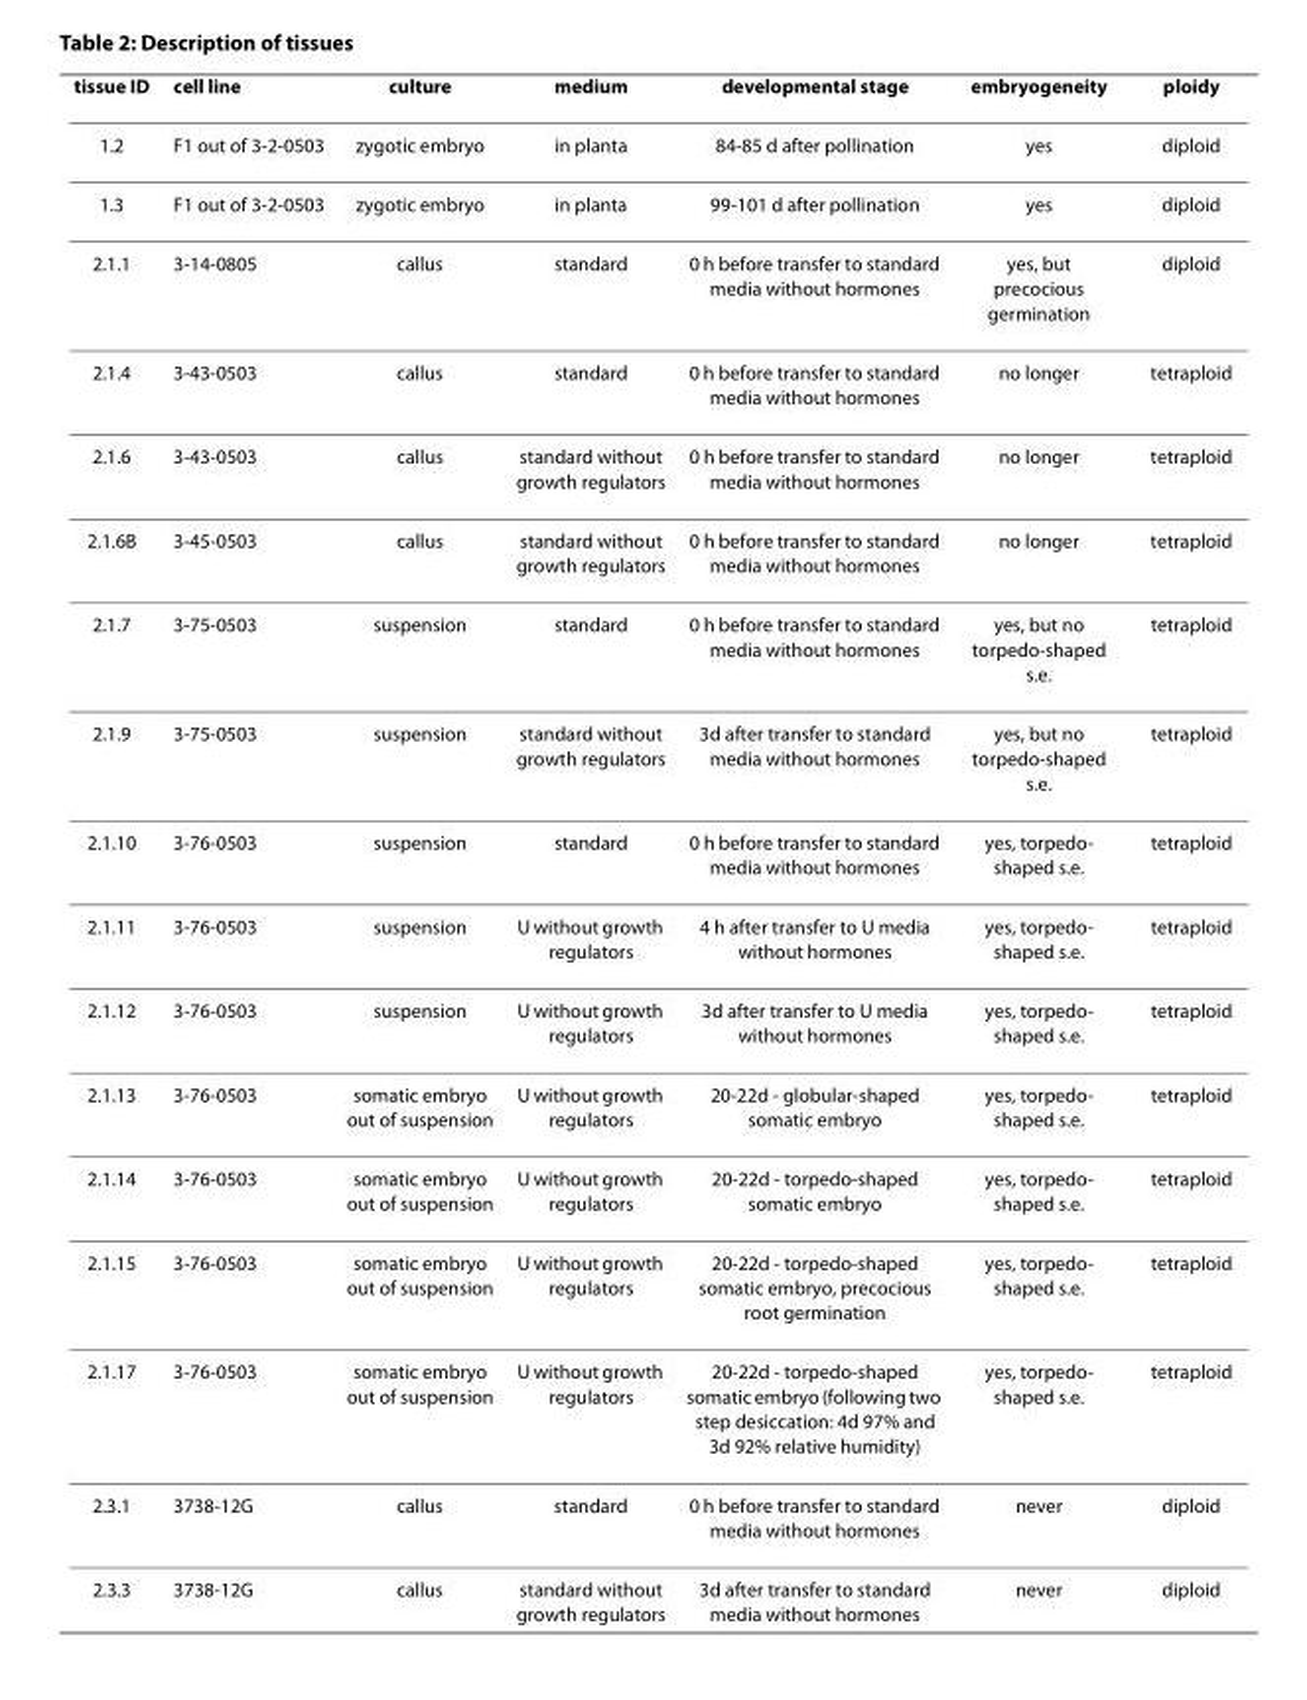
<table><thead><tr><td>tissue ID</td><td>cell line</td><td>culture</td><td>medium</td><td>developmental stage</td><td>embryogeneity</td><td>ploidy</td></tr></thead><tbody><tr><td>1.2</td><td>F1 out of 3-2-0503</td><td>zygotic embryo</td><td>in planta</td><td>84-85 d after pollination</td><td>yes</td><td>diploid</td></tr><tr><td>1.3</td><td>F1 out of 3-2-0503</td><td>zygotic embryo</td><td>in planta</td><td>99-101 d after pollination</td><td>yes</td><td>diploid</td></tr><tr><td>2.1.1</td><td>3-14-0805</td><td>callus</td><td>standard</td><td>0 h before transfer to standard media without hormones</td><td>yes, but precocious germination</td><td>diploid</td></tr><tr><td>2.1.4</td><td>3-43-0503</td><td>callus</td><td>standard</td><td>0 h before transfer to standard media without hormones</td><td>no longer</td><td>tetraploid</td></tr><tr><td>2.1.6</td><td>3-43-0503</td><td>callus</td><td>standard without growth regulators</td><td>0 h before transfer to standard media without hormones</td><td>no longer</td><td>tetraploid</td></tr><tr><td>2.1.6B</td><td>3-45-0503</td><td>callus</td><td>standard without growth regulators</td><td>0 h before transfer to standard media without hormones</td><td>no longer</td><td>tetraploid</td></tr><tr><td>2.1.7</td><td>3-75-0503</td><td>suspension</td><td>standard</td><td>0 h before transfer to standard media without hormones</td><td>yes, but no torpedo-shaped s.e.</td><td>tetraploid</td></tr><tr><td>2.1.9</td><td>3-75-0503</td><td>suspension</td><td>standard without growth regulators</td><td>3d after transfer to standard media without hormones</td><td>yes, but no torpedo-shaped s.e.</td><td>tetraploid</td></tr><tr><td>2.1.10</td><td>3-76-0503</td><td>suspension</td><td>standard</td><td>0 h before transfer to standard media without hormones</td><td>yes, torpedo- shaped s.e.</td><td>tetraploid</td></tr><tr><td>2.1.11</td><td>3-76-0503</td><td>suspension</td><td>U without growth regulators</td><td>4 h after transfer to U media without hormones</td><td>yes, torpedo- shaped s.e.</td><td>tetraploid</td></tr><tr><td>2.1.12</td><td>3-76-0503</td><td>suspension</td><td>U without growth regulators</td><td>3d after transfer to U media without hormones</td><td>yes, torpedo- shaped s.e.</td><td>tetraploid</td></tr><tr><td>2.1.13</td><td>3-76-0503</td><td>somatic embryo out of suspension</td><td>U without growth regulators</td><td>20-22d - globular-shaped somatic embryo</td><td>yes, torpedo- shaped s.e.</td><td>tetraploid</td></tr><tr><td>2.1.14</td><td>3-76-0503</td><td>somatic embryo out of suspension</td><td>U without growth regulators</td><td>20-22d - torpedo-shaped somatic embryo</td><td>yes, torpedo- shaped s.e.</td><td>tetraploid</td></tr><tr><td>2.1.15</td><td>3-76-0503</td><td>somatic embryo out of suspension</td><td>U without growth regulators</td><td>20-22d - torpedo-shaped somatic embryo, precocious root germination</td><td>yes, torpedo- shaped s.e.</td><td>tetraploid</td></tr><tr><td>2.1.17</td><td>3-76-0503</td><td>somatic embryo out of suspension</td><td>U without growth regulators</td><td>20-22d - torpedo-shaped somatic embryo (following two step desiccation: 4d 97% and 3d 92% relative humidity)</td><td>yes, torpedo- shaped s.e.</td><td>tetraploid</td></tr><tr><td>2.3.1</td><td>3738-12G</td><td>callus</td><td>standard</td><td>0 h before transfer to standard media without hormones</td><td>never</td><td>diploid</td></tr><tr><td>2.3.3</td><td>3738-12G</td><td>callus</td><td>standard without growth regulators</td><td>3d after transfer to standard media without hormones</td><td>never</td><td>diploid</td></tr></tbody></table>